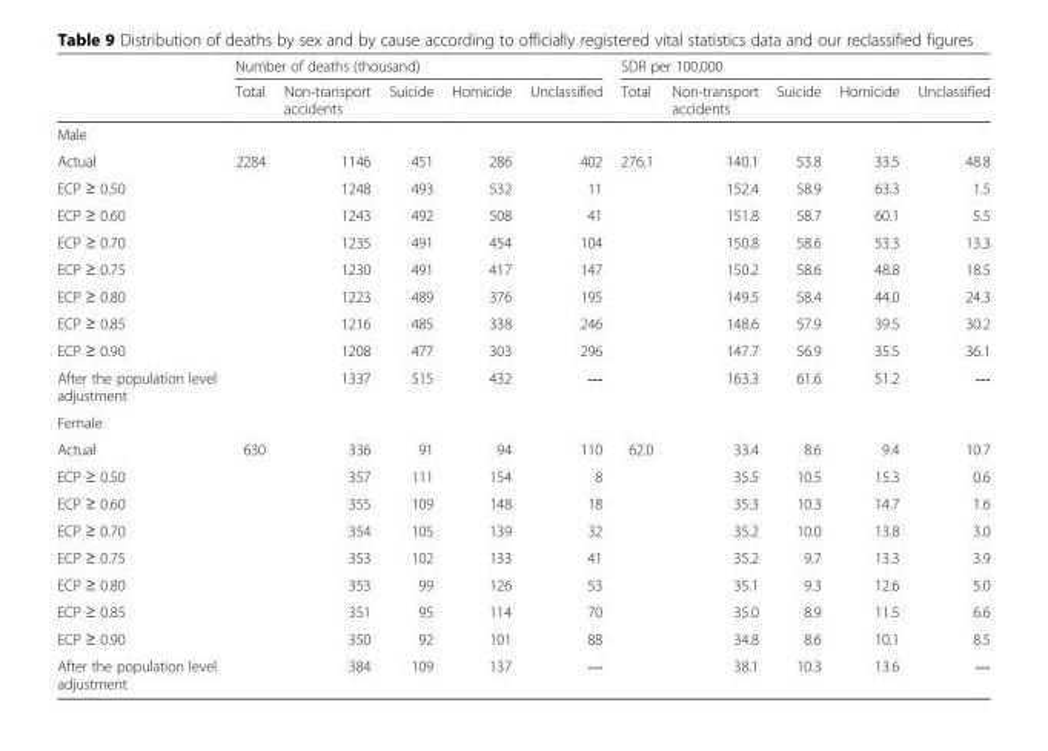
<table><thead><tr><td rowspan="2"></td><td colspan="5">Number of deaths (thousand)</td><td colspan="5">SDR per 100,000</td></tr><tr><td>Total</td><td>Non-transport accidents</td><td>Suicide</td><td>Homicide</td><td>Unclassified</td><td>Total</td><td>Non-transport accidents</td><td>Suicide</td><td>Homicide</td><td>Unclassified</td></tr></thead><tbody><tr><td colspan="11">Male</td></tr><tr><td>Actual</td><td rowspan="9">2284</td><td>1146</td><td>451</td><td>286</td><td>402</td><td rowspan="9">276.1</td><td>140.1</td><td>53.8</td><td>33.5</td><td>48.8</td></tr><tr><td>ECP ≥ 0.50</td><td>1248</td><td>493</td><td>532</td><td>11</td><td>152.4</td><td>58.9</td><td>63.3</td><td>1.5</td></tr><tr><td>ECP ≥ 0.60</td><td>1243</td><td>492</td><td>508</td><td>41</td><td>151.8</td><td>58.7</td><td>60.1</td><td>5.5</td></tr><tr><td>ECP ≥ 0.70</td><td>1235</td><td>491</td><td>454</td><td>104</td><td>150.8</td><td>58.6</td><td>53.3</td><td>13.3</td></tr><tr><td>ECP ≥ 0.75</td><td>1230</td><td>491</td><td>417</td><td>147</td><td>150.2</td><td>58.6</td><td>48.8</td><td>18.5</td></tr><tr><td>ECP ≥ 0.80</td><td>1223</td><td>489</td><td>376</td><td>195</td><td>149.5</td><td>58.4</td><td>44.0</td><td>24.3</td></tr><tr><td>ECP ≥ 0.85</td><td>1216</td><td>485</td><td>338</td><td>246</td><td>148.6</td><td>57.9</td><td>39.5</td><td>30.2</td></tr><tr><td>ECP ≥ 0.90</td><td>1208</td><td>477</td><td>303</td><td>296</td><td>147.7</td><td>56.9</td><td>35.5</td><td>36.1</td></tr><tr><td>After the population level adjustment</td><td>1337</td><td>515</td><td>432</td><td>---</td><td>163.3</td><td>61.6</td><td>51.2</td><td>---</td></tr><tr><td colspan="11">Female</td></tr><tr><td>Actual</td><td rowspan="9">630</td><td>336</td><td>91</td><td>94</td><td>110</td><td rowspan="9">62.0</td><td>33.4</td><td>8.6</td><td>9.4</td><td>10.7</td></tr><tr><td>ECP ≥ 0.50</td><td>357</td><td>111</td><td>154</td><td>8</td><td>35.5</td><td>10.5</td><td>15.3</td><td>0.6</td></tr><tr><td>ECP ≥ 0.60</td><td>355</td><td>109</td><td>148</td><td>18</td><td>35.3</td><td>10.3</td><td>14.7</td><td>1.6</td></tr><tr><td>ECP ≥ 0.70</td><td>354</td><td>105</td><td>139</td><td>32</td><td>35.2</td><td>10.0</td><td>13.8</td><td>3.0</td></tr><tr><td>ECP ≥ 0.75</td><td>353</td><td>102</td><td>133</td><td>41</td><td>35.2</td><td>9.7</td><td>13.3</td><td>3.9</td></tr><tr><td>ECP ≥ 0.80</td><td>353</td><td>99</td><td>126</td><td>53</td><td>35.1</td><td>9.3</td><td>12.6</td><td>5.0</td></tr><tr><td>ECP ≥ 0.85</td><td>351</td><td>95</td><td>114</td><td>70</td><td>35.0</td><td>8.9</td><td>11.5</td><td>6.6</td></tr><tr><td>ECP ≥ 0.90</td><td>350</td><td>92</td><td>101</td><td>88</td><td>34.8</td><td>8.6</td><td>10.1</td><td>8.5</td></tr><tr><td>After the population level adjustment</td><td>384</td><td>109</td><td>137</td><td>---</td><td>38.1</td><td>10.3</td><td>13.6</td><td>---</td></tr></tbody></table>